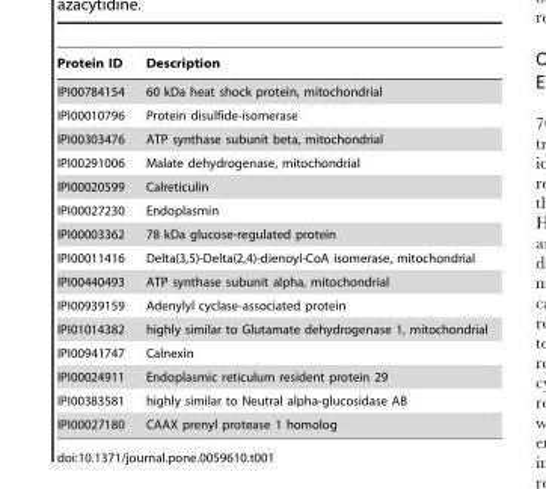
<table><thead><tr><td>Protein ID</td><td>Description</td></tr></thead><tbody><tr><td>IPI00784154</td><td>60 kDa heat shock protein, mitochondrial</td></tr><tr><td>IPI00010796</td><td>Protein disulfide-isomerase</td></tr><tr><td>IPI00303476</td><td>ATP synthase subunit beta, mitochondrial</td></tr><tr><td>IPI00291006</td><td>Malate dehydrogenase, mitochondrial</td></tr><tr><td>IPI00020599</td><td>Calreticulin</td></tr><tr><td>IPI00027230</td><td>Endoplasmin</td></tr><tr><td>IPI00003362</td><td>78 kDa glucose-regulated protein</td></tr><tr><td>IPI00011416</td><td>Delta(3,5)-Delta(2,4)-dienoyl-CoA isomerase, mitochondrial</td></tr><tr><td>IPI00440493</td><td>ATP synthase subunit alpha, mitochondrial</td></tr><tr><td>IPI00939159</td><td>Adenylyl cyclase-associated protein</td></tr><tr><td>IPI01014382</td><td>highly similar to Glutamate dehydrogenase 1, mitochondrial</td></tr><tr><td>IPI00941747</td><td>Calnexin</td></tr><tr><td>IPI00024911</td><td>Endoplasmic reticulum resident protein 29</td></tr><tr><td>IPI00383581</td><td>highly similar to Neutral alpha-glucosidase AB</td></tr><tr><td>IPI00027180</td><td>CAAX prenyl protease 1 homolog</td></tr></tbody></table>